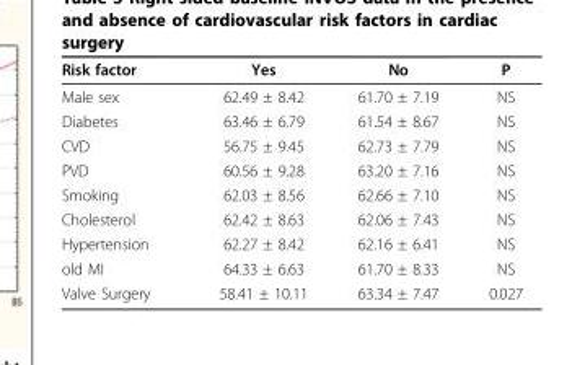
<table><thead><tr><td>Risk factor</td><td>Yes</td><td>No</td><td>P</td></tr></thead><tbody><tr><td>Male sex</td><td>62.49 ± 8.42</td><td>61.70 ± 7.19</td><td>NS</td></tr><tr><td>Diabetes</td><td>63.46 ± 6.79</td><td>61.54 ± 8.67</td><td>NS</td></tr><tr><td>CVD</td><td>56.75 ± 9.45</td><td>62.73 ± 7.79</td><td>NS</td></tr><tr><td>PVD</td><td>60.56 ± 9.28</td><td>63.20 ± 7.16</td><td>NS</td></tr><tr><td>Smoking</td><td>62.03 ± 8.56</td><td>62.66 ± 7.10</td><td>NS</td></tr><tr><td>Cholesterol</td><td>62.42 ± 8.63</td><td>62.06 ± 7.43</td><td>NS</td></tr><tr><td>Hypertension</td><td>62.27 ± 8.42</td><td>62.16 ± 6.41</td><td>NS</td></tr><tr><td>old MI</td><td>64.33 ± 6.63</td><td>61.70 ± 8.33</td><td>NS</td></tr><tr><td>Valve Surgery</td><td>58.41 ± 10.11</td><td>63.34 ± 7.47</td><td>0.027</td></tr></tbody></table>